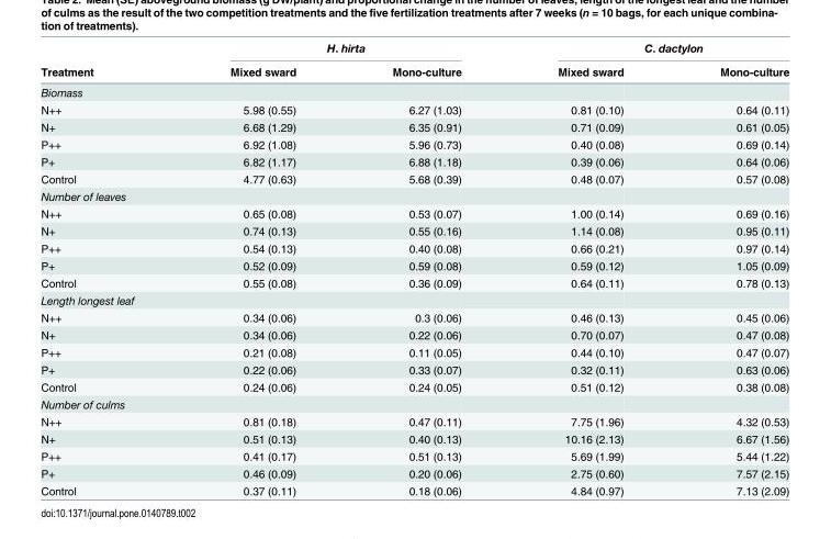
<table><thead><tr><td rowspan="2">Treatment</td><td colspan="2">H. hirta</td><td colspan="2">C. dactylon</td></tr><tr><td>Mixed sward</td><td>Mono-culture</td><td>Mixed sward</td><td>Mono-culture</td></tr></thead><tbody><tr><td colspan="5">Biomass</td></tr><tr><td>N++</td><td>5.98 (0.55)</td><td>6.27 (1.03)</td><td>0.81 (0.10)</td><td>0.64 (0.11)</td></tr><tr><td>N+</td><td>6.68 (1.29)</td><td>6.35 (0.91)</td><td>0.71 (0.09)</td><td>0.61 (0.05)</td></tr><tr><td>P++</td><td>6.92 (1.08)</td><td>5.96 (0.73)</td><td>0.40 (0.08)</td><td>0.69 (0.14)</td></tr><tr><td>P+</td><td>6.82 (1.17)</td><td>6.88 (1.18)</td><td>0.39 (0.06)</td><td>0.64 (0.06)</td></tr><tr><td>Control</td><td>4.77 (0.63)</td><td>5.68 (0.39)</td><td>0.48 (0.07)</td><td>0.57 (0.08)</td></tr><tr><td colspan="5">Number of leaves</td></tr><tr><td>N++</td><td>0.65 (0.08)</td><td>0.53 (0.07)</td><td>1.00 (0.14)</td><td>0.69 (0.16)</td></tr><tr><td>N+</td><td>0.74 (0.13)</td><td>0.55 (0.16)</td><td>1.14 (0.08)</td><td>0.95 (0.11)</td></tr><tr><td>P++</td><td>0.54 (0.13)</td><td>0.40 (0.08)</td><td>0.66 (0.21)</td><td>0.97 (0.14)</td></tr><tr><td>P+</td><td>0.52 (0.09)</td><td>0.59 (0.08)</td><td>0.59 (0.12)</td><td>1.05 (0.09)</td></tr><tr><td>Control</td><td>0.55 (0.08)</td><td>0.36 (0.09)</td><td>0.64 (0.11)</td><td>0.78 (0.13)</td></tr><tr><td colspan="5">Length longest leaf</td></tr><tr><td>N++</td><td>0.34 (0.06)</td><td>0.3 (0.06)</td><td>0.46 (0.13)</td><td>0.45 (0.06)</td></tr><tr><td>N+</td><td>0.34 (0.06)</td><td>0.22 (0.06)</td><td>0.70 (0.07)</td><td>0.47 (0.08)</td></tr><tr><td>P++</td><td>0.21 (0.08)</td><td>0.11 (0.05)</td><td>0.44 (0.10)</td><td>0.47 (0.07)</td></tr><tr><td>P+</td><td>0.22 (0.06)</td><td>0.33 (0.07)</td><td>0.32 (0.11)</td><td>0.63 (0.06)</td></tr><tr><td>Control</td><td>0.24 (0.06)</td><td>0.24 (0.05)</td><td>0.51 (0.12)</td><td>0.38 (0.08)</td></tr><tr><td colspan="5">Number of culms</td></tr><tr><td>N++</td><td>0.81 (0.18)</td><td>0.47 (0.11)</td><td>7.75 (1.96)</td><td>4.32 (0.53)</td></tr><tr><td>N+</td><td>0.51 (0.13)</td><td>0.40 (0.13)</td><td>10.16 (2.13)</td><td>6.67 (1.56)</td></tr><tr><td>P++</td><td>0.41 (0.17)</td><td>0.51 (0.13)</td><td>5.69 (1.99)</td><td>5.44 (1.22)</td></tr><tr><td>P+</td><td>0.46 (0.09)</td><td>0.20 (0.06)</td><td>2.75 (0.60)</td><td>7.57 (2.15)</td></tr><tr><td>Control</td><td>0.37 (0.11)</td><td>0.18 (0.06)</td><td>4.84 (0.97)</td><td>7.13 (2.09)</td></tr></tbody></table>